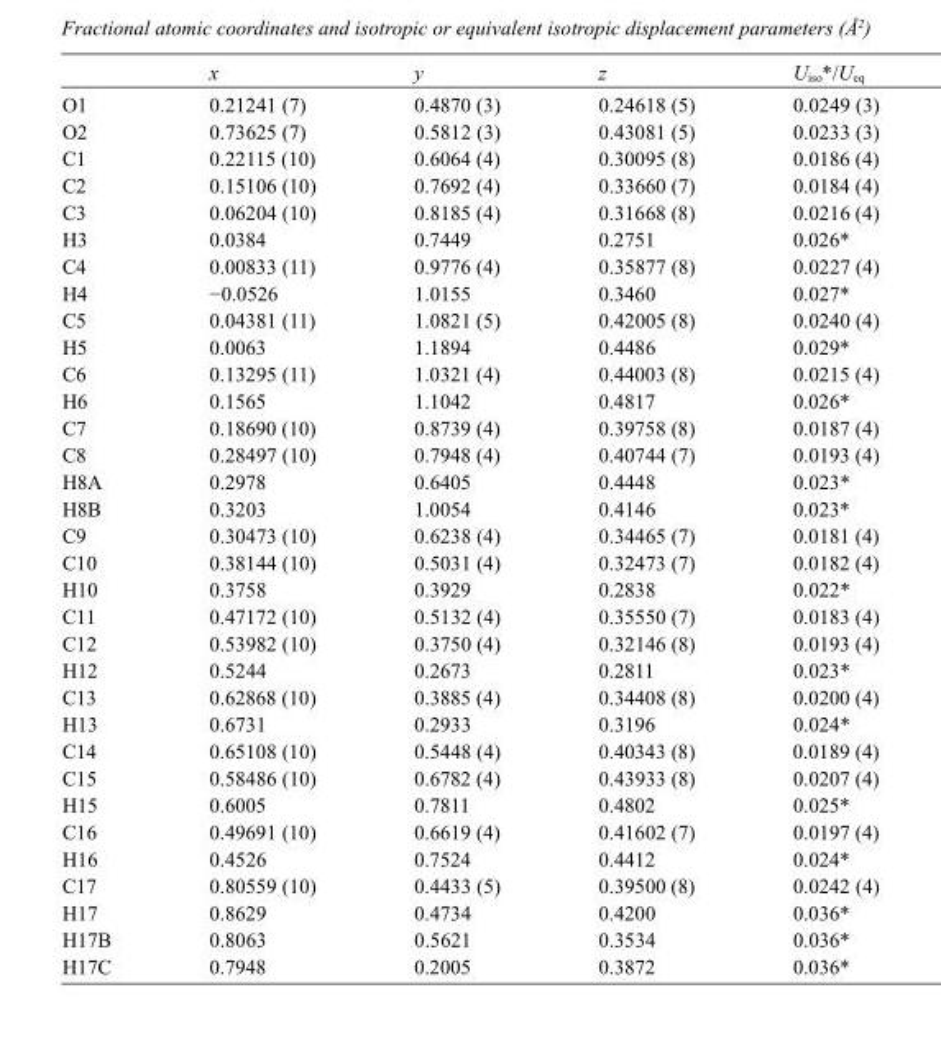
<table><thead><tr><td></td><td>x</td><td>y</td><td>z</td><td>U<sub>iso</sub>*/U<sub>eq</sub></td></tr></thead><tbody><tr><td>O1</td><td>0.21241 (7)</td><td>0.4870 (3)</td><td>0.24618 (5)</td><td>0.0249 (3)</td></tr><tr><td>O2</td><td>0.73625 (7)</td><td>0.5812 (3)</td><td>0.43081 (5)</td><td>0.0233 (3)</td></tr><tr><td>C1</td><td>0.22115 (10)</td><td>0.6064 (4)</td><td>0.30095 (8)</td><td>0.0186 (4)</td></tr><tr><td>C2</td><td>0.15106 (10)</td><td>0.7692 (4)</td><td>0.33660 (7)</td><td>0.0184 (4)</td></tr><tr><td>C3</td><td>0.06204 (10)</td><td>0.8185 (4)</td><td>0.31668 (8)</td><td>0.0216 (4)</td></tr><tr><td>H3</td><td>0.0384</td><td>0.7449</td><td>0.2751</td><td>0.026*</td></tr><tr><td>C4</td><td>0.00833 (11)</td><td>0.9776 (4)</td><td>0.35877 (8)</td><td>0.0227 (4)</td></tr><tr><td>H4</td><td>−0.0526</td><td>1.0155</td><td>0.3460</td><td>0.027*</td></tr><tr><td>C5</td><td>0.04381 (11)</td><td>1.0821 (5)</td><td>0.42005 (8)</td><td>0.0240 (4)</td></tr><tr><td>H5</td><td>0.0063</td><td>1.1894</td><td>0.4486</td><td>0.029*</td></tr><tr><td>C6</td><td>0.13295 (11)</td><td>1.0321 (4)</td><td>0.44003 (8)</td><td>0.0215 (4)</td></tr><tr><td>H6</td><td>0.1565</td><td>1.1042</td><td>0.4817</td><td>0.026*</td></tr><tr><td>C7</td><td>0.18690 (10)</td><td>0.8739 (4)</td><td>0.39758 (8)</td><td>0.0187 (4)</td></tr><tr><td>C8</td><td>0.28497 (10)</td><td>0.7948 (4)</td><td>0.40744 (7)</td><td>0.0193 (4)</td></tr><tr><td>H8A</td><td>0.2978</td><td>0.6405</td><td>0.4448</td><td>0.023*</td></tr><tr><td>H8B</td><td>0.3203</td><td>1.0054</td><td>0.4146</td><td>0.023*</td></tr><tr><td>C9</td><td>0.30473 (10)</td><td>0.6238 (4)</td><td>0.34465 (7)</td><td>0.0181 (4)</td></tr><tr><td>C10</td><td>0.38144 (10)</td><td>0.5031 (4)</td><td>0.32473 (7)</td><td>0.0182 (4)</td></tr><tr><td>H10</td><td>0.3758</td><td>0.3929</td><td>0.2838</td><td>0.022*</td></tr><tr><td>C11</td><td>0.47172 (10)</td><td>0.5132 (4)</td><td>0.35550 (7)</td><td>0.0183 (4)</td></tr><tr><td>C12</td><td>0.53982 (10)</td><td>0.3750 (4)</td><td>0.32146 (8)</td><td>0.0193 (4)</td></tr><tr><td>H12</td><td>0.5244</td><td>0.2673</td><td>0.2811</td><td>0.023*</td></tr><tr><td>C13</td><td>0.62868 (10)</td><td>0.3885 (4)</td><td>0.34408 (8)</td><td>0.0200 (4)</td></tr><tr><td>H13</td><td>0.6731</td><td>0.2933</td><td>0.3196</td><td>0.024*</td></tr><tr><td>C14</td><td>0.65108 (10)</td><td>0.5448 (4)</td><td>0.40343 (8)</td><td>0.0189 (4)</td></tr><tr><td>C15</td><td>0.58486 (10)</td><td>0.6782 (4)</td><td>0.43933 (8)</td><td>0.0207 (4)</td></tr><tr><td>H15</td><td>0.6005</td><td>0.7811</td><td>0.4802</td><td>0.025*</td></tr><tr><td>C16</td><td>0.49691 (10)</td><td>0.6619 (4)</td><td>0.41602 (7)</td><td>0.0197 (4)</td></tr><tr><td>H16</td><td>0.4526</td><td>0.7524</td><td>0.4412</td><td>0.024*</td></tr><tr><td>C17</td><td>0.80559 (10)</td><td>0.4433 (5)</td><td>0.39500 (8)</td><td>0.0242 (4)</td></tr><tr><td>H17</td><td>0.8629</td><td>0.4734</td><td>0.4200</td><td>0.036*</td></tr><tr><td>H17B</td><td>0.8063</td><td>0.5621</td><td>0.3534</td><td>0.036*</td></tr><tr><td>H17C</td><td>0.7948</td><td>0.2005</td><td>0.3872</td><td>0.036*</td></tr></tbody></table>